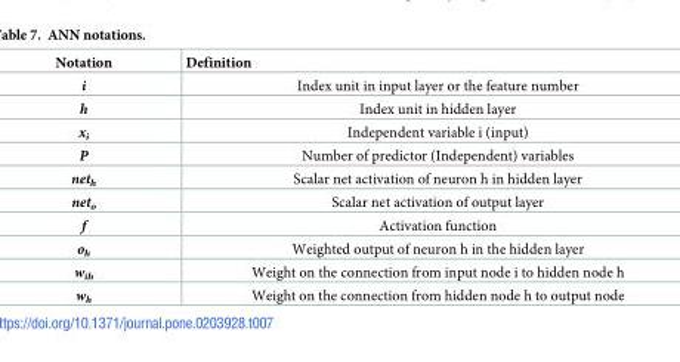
<table><thead><tr><td>Notation</td><td>Definition</td></tr></thead><tbody><tr><td>i</td><td>Index unit in input layer or the feature number</td></tr><tr><td>h</td><td>Index unit in hidden layer</td></tr><tr><td>x<sub>i</sub></td><td>Independent variable i (input)</td></tr><tr><td>P</td><td>Number of predictor (Independent) variables</td></tr><tr><td>net<sub>h</sub></td><td>Scalar net activation of neuron h in hidden layer</td></tr><tr><td>net<sub>o</sub></td><td>Scalar net activation of output layer</td></tr><tr><td>f</td><td>Activation function</td></tr><tr><td>o<sub>h</sub></td><td>Weighted output of neuron h in the hidden layer</td></tr><tr><td>w<sub>ih</sub></td><td>Weight on the connection from input node i to hidden node h</td></tr><tr><td>w<sub>h</sub></td><td>Weight on the connection from hidden node h to output node</td></tr></tbody></table>